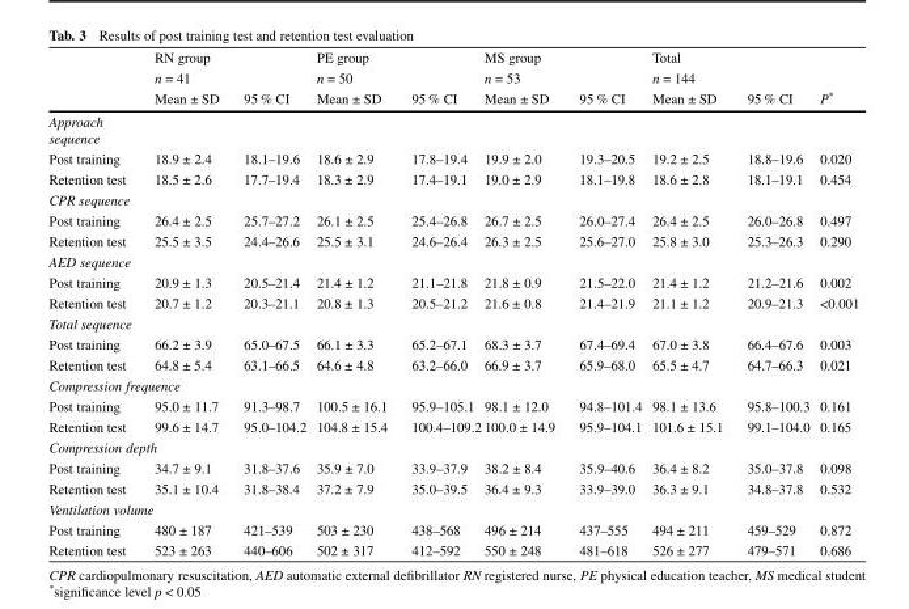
<table><thead><tr><td rowspan="3"></td><td rowspan="2" colspan="2">RN group n = 41</td><td rowspan="2" colspan="2">PE group n = 50</td><td rowspan="2" colspan="2">MS group n = 53</td><td rowspan="2" colspan="2">Total n = 144</td><td rowspan="3">P*</td></tr><tr></tr><tr><td>Mean ± SD</td><td>95 % CI</td><td>Mean ± SD</td><td>95 % CI</td><td>Mean ± SD</td><td>95 % CI</td><td>Mean ± SD</td><td>95 % CI</td></tr></thead><tbody><tr><td colspan="10">Approach sequence</td></tr><tr><td>Post training</td><td>18.9 ± 2.4</td><td>18.1–19.6</td><td>18.6 ± 2.9</td><td>17.8–19.4</td><td>19.9 ± 2.0</td><td>19.3–20.5</td><td>19.2 ± 2.5</td><td>18.8–19.6</td><td>0.020</td></tr><tr><td>Retention test</td><td>18.5 ± 2.6</td><td>17.7–19.4</td><td>18.3 ± 2.9</td><td>17.4–19.1</td><td>19.0 ± 2.9</td><td>18.1–19.8</td><td>18.6 ± 2.8</td><td>18.1–19.1</td><td>0.454</td></tr><tr><td colspan="10">CPR sequence</td></tr><tr><td>Post training</td><td>26.4 ± 2.5</td><td>25.7–27.2</td><td>26.1 ± 2.5</td><td>25.4–26.8</td><td>26.7 ± 2.5</td><td>26.0–27.4</td><td>26.4 ± 2.5</td><td>26.0–26.8</td><td>0.497</td></tr><tr><td>Retention test</td><td>25.5 ± 3.5</td><td>24.4–26.6</td><td>25.5 ± 3.1</td><td>24.6–26.4</td><td>26.3 ± 2.5</td><td>25.6–27.0</td><td>25.8 ± 3.0</td><td>25.3–26.3</td><td>0.290</td></tr><tr><td colspan="10">AED sequence</td></tr><tr><td>Post training</td><td>20.9 ± 1.3</td><td>20.5–21.4</td><td>21.4 ± 1.2</td><td>21.1–21.8</td><td>21.8 ± 0.9</td><td>21.5–22.0</td><td>21.4 ± 1.2</td><td>21.2–21.6</td><td>0.002</td></tr><tr><td>Retention test</td><td>20.7 ± 1.2</td><td>20.3–21.1</td><td>20.8 ± 1.3</td><td>20.5–21.2</td><td>21.6 ± 0.8</td><td>21.4–21.9</td><td>21.1 ± 1.2</td><td>20.9–21.3</td><td>&lt;0.001</td></tr><tr><td colspan="10">Total sequence</td></tr><tr><td>Post training</td><td>66.2 ± 3.9</td><td>65.0–67.5</td><td>66.1 ± 3.3</td><td>65.2–67.1</td><td>68.3 ± 3.7</td><td>67.4–69.4</td><td>67.0 ± 3.8</td><td>66.4–67.6</td><td>0.003</td></tr><tr><td>Retention test</td><td>64.8 ± 5.4</td><td>63.1–66.5</td><td>64.6 ± 4.8</td><td>63.2–66.0</td><td>66.9 ± 3.7</td><td>65.9–68.0</td><td>65.5 ± 4.7</td><td>64.7–66.3</td><td>0.021</td></tr><tr><td colspan="10">Compression frequence</td></tr><tr><td>Post training</td><td>95.0 ± 11.7</td><td>91.3–98.7</td><td>100.5 ± 16.1</td><td>95.9–105.1</td><td>98.1 ± 12.0</td><td>94.8–101.4</td><td>98.1 ± 13.6</td><td>95.8–100.3</td><td>0.161</td></tr><tr><td>Retention test</td><td>99.6 ± 14.7</td><td>95.0–104.2</td><td>104.8 ± 15.4</td><td>100.4–109.2</td><td>100.0 ± 14.9</td><td>95.9–104.1</td><td>101.6 ± 15.1</td><td>99.1–104.0</td><td>0.165</td></tr><tr><td colspan="10">Compression depth</td></tr><tr><td>Post training</td><td>34.7 ± 9.1</td><td>31.8–37.6</td><td>35.9 ± 7.0</td><td>33.9–37.9</td><td>38.2 ± 8.4</td><td>35.9–40.6</td><td>36.4 ± 8.2</td><td>35.0–37.8</td><td>0.098</td></tr><tr><td>Retention test</td><td>35.1 ± 10.4</td><td>31.8–38.4</td><td>37.2 ± 7.9</td><td>35.0–39.5</td><td>36.4 ± 9.3</td><td>33.9–39.0</td><td>36.3 ± 9.1</td><td>34.8–37.8</td><td>0.532</td></tr><tr><td colspan="10">Ventilation volume</td></tr><tr><td>Post training</td><td>480 ± 187</td><td>421–539</td><td>503 ± 230</td><td>438–568</td><td>496 ± 214</td><td>437–555</td><td>494 ± 211</td><td>459–529</td><td>0.872</td></tr><tr><td>Retention test</td><td>523 ± 263</td><td>440–606</td><td>502 ± 317</td><td>412–592</td><td>550 ± 248</td><td>481–618</td><td>526 ± 277</td><td>479–571</td><td>0.686</td></tr></tbody></table>